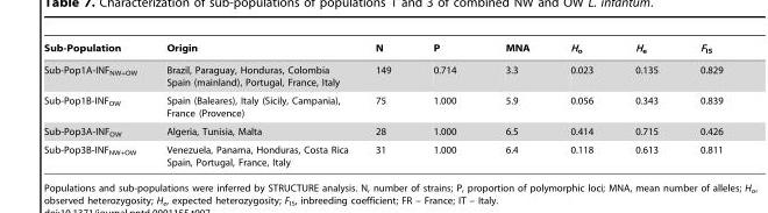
<table><thead><tr><td>Sub-Population</td><td>Origin</td><td>N</td><td>P</td><td>MNA</td><td>H<sub>o</sub></td><td>H<sub>e</sub></td><td>F<sub>IS</sub></td></tr></thead><tbody><tr><td>Sub-Pop1A-INF<sub>NW+OW</sub></td><td>Brazil, Paraguay, Honduras, Colombia Spain (mainland), Portugal, France, Italy</td><td>149</td><td>0.714</td><td>3.3</td><td>0.023</td><td>0.135</td><td>0.829</td></tr><tr><td>Sub-Pop1B-INF<sub>OW</sub></td><td>Spain (Baleares), Italy (Sicily, Campania), France (Provence)</td><td>75</td><td>1.000</td><td>5.9</td><td>0.056</td><td>0.343</td><td>0.839</td></tr><tr><td>Sub-Pop3A-INF<sub>OW</sub></td><td>Algeria, Tunisia, Malta</td><td>28</td><td>1.000</td><td>6.5</td><td>0.414</td><td>0.715</td><td>0.426</td></tr><tr><td>Sub-Pop3B-INF<sub>NW+OW</sub></td><td>Venezuela, Panama, Honduras, Costa Rica Spain, Portugal, France, Italy</td><td>31</td><td>1.000</td><td>6.4</td><td>0.118</td><td>0.613</td><td>0.811</td></tr></tbody></table>